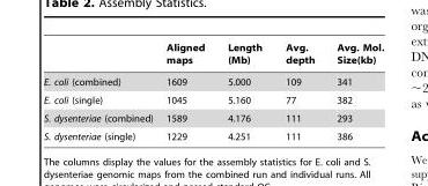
<table><thead><tr><td></td><td>Aligned maps</td><td>Length (Mb)</td><td>Avg. depth</td><td>Avg. Mol. Size(kb)</td></tr></thead><tbody><tr><td>E. coli (combined)</td><td>1609</td><td>5.000</td><td>109</td><td>341</td></tr><tr><td>E. coli (single)</td><td>1045</td><td>5.160</td><td>77</td><td>382</td></tr><tr><td>S. dysenteriae (combined)</td><td>1589</td><td>4.176</td><td>111</td><td>293</td></tr><tr><td>S. dysenteriae (single)</td><td>1229</td><td>4.251</td><td>111</td><td>386</td></tr></tbody></table>